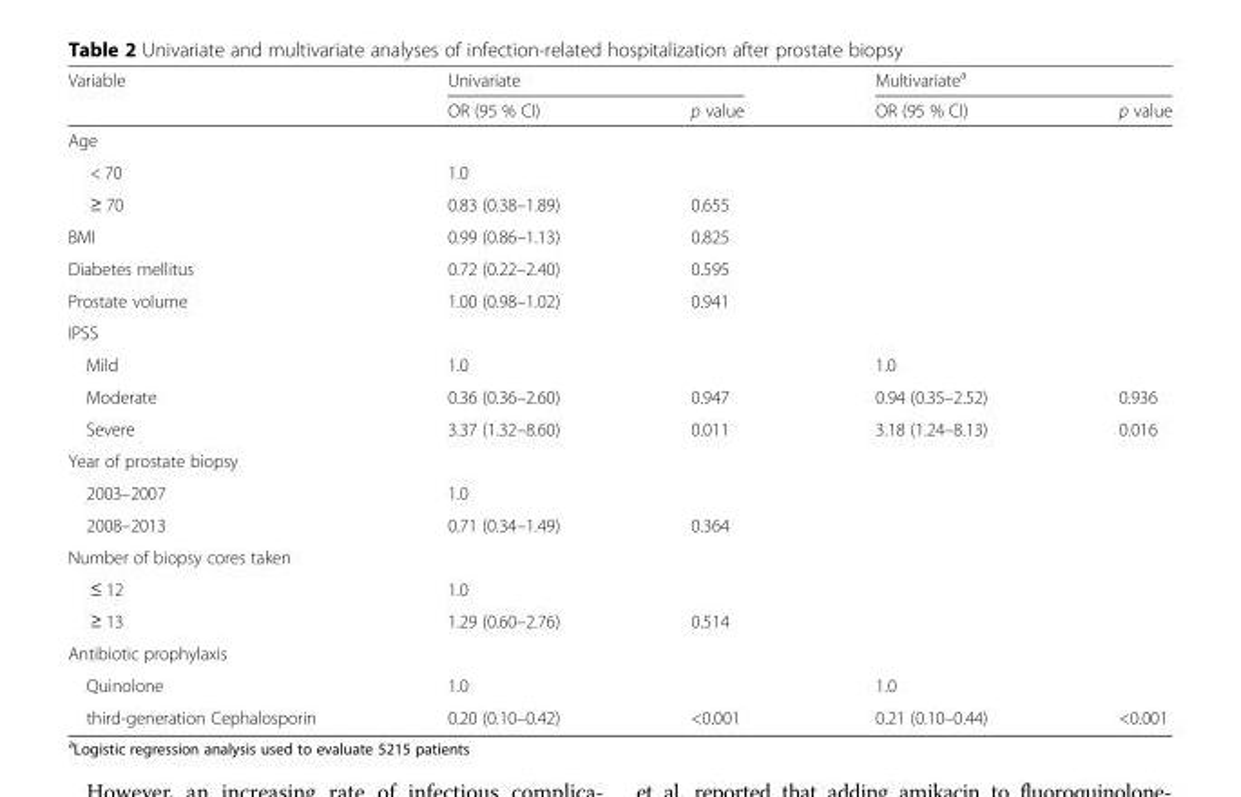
<table><thead><tr><td rowspan="2">Variable</td><td colspan="2">Univariate</td><td colspan="2">Multivariate<sup>a</sup></td></tr><tr><td>OR (95 % CI)</td><td>p value</td><td>OR (95 % CI)</td><td>p value</td></tr></thead><tbody><tr><td colspan="5">Age</td></tr><tr><td>&lt; 70</td><td>1.0</td><td></td><td></td><td></td></tr><tr><td>≥ 70</td><td>0.83 (0.38–1.89)</td><td>0.655</td><td></td><td></td></tr><tr><td>BMI</td><td>0.99 (0.86–1.13)</td><td>0.825</td><td></td><td></td></tr><tr><td>Diabetes mellitus</td><td>0.72 (0.22–2.40)</td><td>0.595</td><td></td><td></td></tr><tr><td>Prostate volume</td><td>1.00 (0.98–1.02)</td><td>0.941</td><td></td><td></td></tr><tr><td colspan="5">IPSS</td></tr><tr><td>Mild</td><td>1.0</td><td></td><td>1.0</td><td></td></tr><tr><td>Moderate</td><td>0.36 (0.36–2.60)</td><td>0.947</td><td>0.94 (0.35–2.52)</td><td>0.936</td></tr><tr><td>Severe</td><td>3.37 (1.32–8.60)</td><td>0.011</td><td>3.18 (1.24–8.13)</td><td>0.016</td></tr><tr><td colspan="5">Year of prostate biopsy</td></tr><tr><td>2003–2007</td><td>1.0</td><td></td><td></td><td></td></tr><tr><td>2008–2013</td><td>0.71 (0.34–1.49)</td><td>0.364</td><td></td><td></td></tr><tr><td colspan="5">Number of biopsy cores taken</td></tr><tr><td>≤ 12</td><td>1.0</td><td></td><td></td><td></td></tr><tr><td>≥ 13</td><td>1.29 (0.60–2.76)</td><td>0.514</td><td></td><td></td></tr><tr><td colspan="5">Antibiotic prophylaxis</td></tr><tr><td>Quinolone</td><td>1.0</td><td></td><td>1.0</td><td></td></tr><tr><td>third-generation Cephalosporin</td><td>0.20 (0.10–0.42)</td><td>&lt;0.001</td><td>0.21 (0.10–0.44)</td><td>&lt;0.001</td></tr></tbody></table>